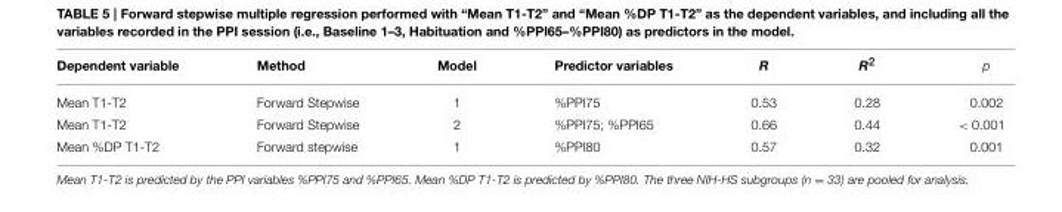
<table><thead><tr><td>Dependent variable</td><td>Method</td><td>Model</td><td>Predictor variables</td><td>R</td><td>R<sup>2</sup></td><td>p</td></tr></thead><tbody><tr><td>Mean T1-T2</td><td>Forward Stepwise</td><td>1</td><td>%PPI75</td><td>0.53</td><td>0.28</td><td>0.002</td></tr><tr><td>Mean T1-T2</td><td>Forward Stepwise</td><td>2</td><td>%PPI75; %PPI65</td><td>0.66</td><td>0.44</td><td>&lt; 0.001</td></tr><tr><td>Mean %DP T1-T2</td><td>Forward stepwise</td><td>1</td><td>%PPI80</td><td>0.57</td><td>0.32</td><td>0.001</td></tr></tbody></table>